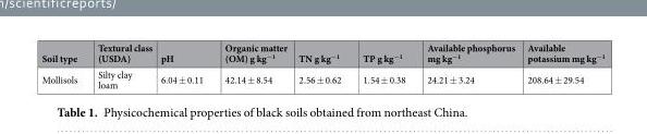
<table><thead><tr><td>Soil type</td><td>Textural class (USDA)</td><td>pH</td><td>Organic matter (OM) g kg<sup>−1</sup></td><td>TN g kg<sup>−1</sup></td><td>TP g kg<sup>−1</sup></td><td>Available phosphorus mg kg<sup>−1</sup></td><td>Available potassium mg kg<sup>−1</sup></td></tr></thead><tbody><tr><td>Mollisols</td><td>Silty clay loam</td><td>6.04 ± 0.11</td><td>42.14 ± 8.54</td><td>2.56 ± 0.62</td><td>1.54 ± 0.38</td><td>24.21 ± 3.24</td><td>208.64 ± 29.54</td></tr></tbody></table>